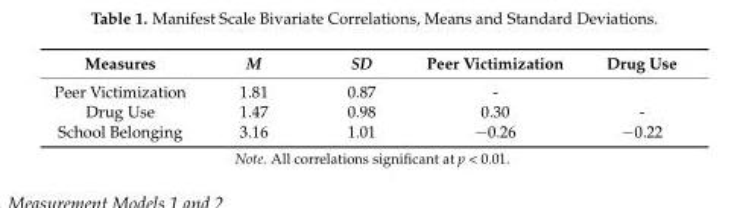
<table><thead><tr><td>Measures</td><td>M</td><td>SD</td><td>Peer Victimization</td><td>Drug Use</td></tr></thead><tbody><tr><td>Peer Victimization</td><td>1.81</td><td>0.87</td><td>-</td><td></td></tr><tr><td>Drug Use</td><td>1.47</td><td>0.98</td><td>0.30</td><td>-</td></tr><tr><td>School Belonging</td><td>3.16</td><td>1.01</td><td>−0.26</td><td>−0.22</td></tr></tbody></table>